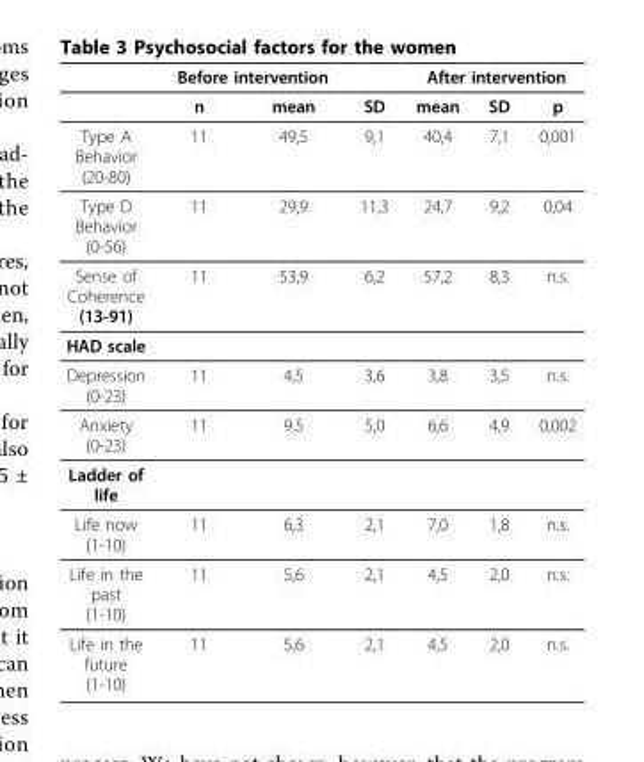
<table><thead><tr><td rowspan="2"></td><td colspan="2">Before intervention</td><td rowspan="2">SD</td><td colspan="3">After intervention</td></tr><tr><td>n</td><td>mean</td><td>mean</td><td>SD</td><td>p</td></tr></thead><tbody><tr><td>Type A Behavior (20-80)</td><td>11</td><td>49,5</td><td>9,1</td><td>40,4</td><td>7,1</td><td>0,001</td></tr><tr><td>Type D Behavior (0-56)</td><td>11</td><td>29,9</td><td>11,3</td><td>24,7</td><td>9,2</td><td>0,04</td></tr><tr><td>Sense of Coherence (13-91)</td><td>11</td><td>53,9</td><td>6,2</td><td>57,2</td><td>8,3</td><td>n.s.</td></tr><tr><td colspan="7">HAD scale</td></tr><tr><td>Depression (0-23)</td><td>11</td><td>4,5</td><td>3,6</td><td>3,8</td><td>3,5</td><td>n.s.</td></tr><tr><td>Anxiety (0-23)</td><td>11</td><td>9,5</td><td>5,0</td><td>6,6</td><td>4,9</td><td>0,002</td></tr><tr><td colspan="7">Ladder of life</td></tr><tr><td>Life now (1-10)</td><td>11</td><td>6,3</td><td>2,1</td><td>7,0</td><td>1,8</td><td>n.s.</td></tr><tr><td>Life in the past (1-10)</td><td>11</td><td>5,6</td><td>2,1</td><td>4,5</td><td>2,0</td><td>n.s.</td></tr><tr><td>Life in the future (1-10)</td><td>11</td><td>5,6</td><td>2,1</td><td>4,5</td><td>2,0</td><td>n.s.</td></tr></tbody></table>